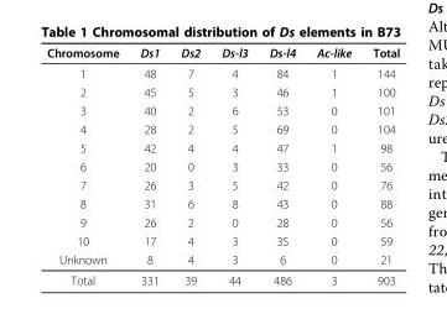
<table><thead><tr><td>Chromosome</td><td>Ds1</td><td>Ds2</td><td>Ds-l3</td><td>Ds-l4</td><td>Ac-like</td><td>Total</td></tr></thead><tbody><tr><td>1</td><td>48</td><td>7</td><td>4</td><td>84</td><td>1</td><td>144</td></tr><tr><td>2</td><td>45</td><td>5</td><td>3</td><td>46</td><td>1</td><td>100</td></tr><tr><td>3</td><td>40</td><td>2</td><td>6</td><td>53</td><td>0</td><td>101</td></tr><tr><td>4</td><td>28</td><td>2</td><td>5</td><td>69</td><td>0</td><td>104</td></tr><tr><td>5</td><td>42</td><td>4</td><td>4</td><td>47</td><td>1</td><td>98</td></tr><tr><td>6</td><td>20</td><td>0</td><td>3</td><td>33</td><td>0</td><td>56</td></tr><tr><td>7</td><td>26</td><td>3</td><td>5</td><td>42</td><td>0</td><td>76</td></tr><tr><td>8</td><td>31</td><td>6</td><td>8</td><td>43</td><td>0</td><td>88</td></tr><tr><td>9</td><td>26</td><td>2</td><td>0</td><td>28</td><td>0</td><td>56</td></tr><tr><td>10</td><td>17</td><td>4</td><td>3</td><td>35</td><td>0</td><td>59</td></tr><tr><td>Unknown</td><td>8</td><td>4</td><td>3</td><td>6</td><td>0</td><td>21</td></tr><tr><td>Total</td><td>331</td><td>39</td><td>44</td><td>486</td><td>3</td><td>903</td></tr></tbody></table>